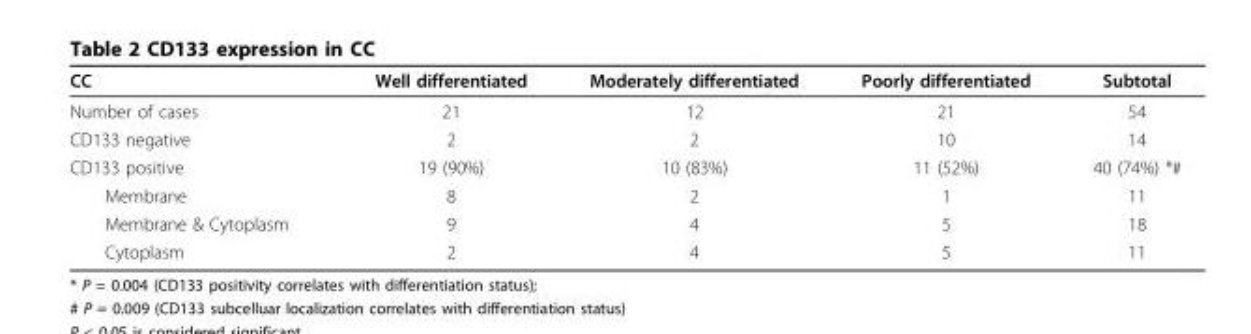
<table><thead><tr><td>CC</td><td>Well differentiated</td><td>Moderately differentiated</td><td>Poorly differentiated</td><td>Subtotal</td></tr></thead><tbody><tr><td>Number of cases</td><td>21</td><td>12</td><td>21</td><td>54</td></tr><tr><td>CD133 negative</td><td>2</td><td>2</td><td>10</td><td>14</td></tr><tr><td>CD133 positive</td><td>19 (90%)</td><td>10 (83%)</td><td>11 (52%)</td><td>40 (74%) *#</td></tr><tr><td>Membrane</td><td>8</td><td>2</td><td>1</td><td>11</td></tr><tr><td>Membrane &amp; Cytoplasm</td><td>9</td><td>4</td><td>5</td><td>18</td></tr><tr><td>Cytoplasm</td><td>2</td><td>4</td><td>5</td><td>11</td></tr></tbody></table>